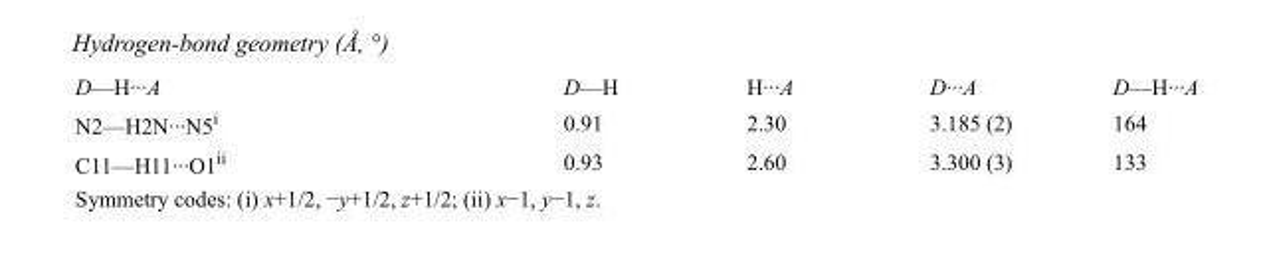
<table><tbody><tr><td>D—H···A</td><td>D—H</td><td>H···A</td><td>D···A</td><td>D—H···A</td></tr><tr><td>N2—H2N···N5<sup>i</sup></td><td>0.91</td><td>2.30</td><td>3.185 (2)</td><td>164</td></tr><tr><td>C11—H11···O1<sup>ii</sup></td><td>0.93</td><td>2.60</td><td>3.300 (3)</td><td>133</td></tr></tbody></table>